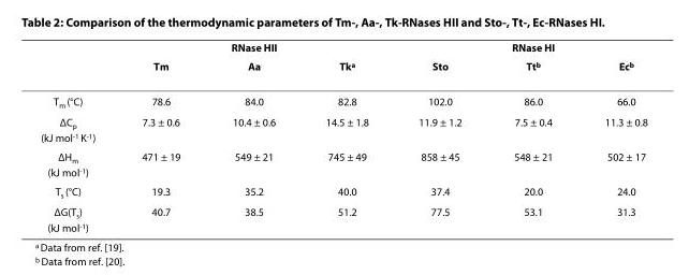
<table><thead><tr><td rowspan="2"></td><td colspan="3">RNase HII</td><td colspan="3">RNase HI</td></tr><tr><td>Tm</td><td>Aa</td><td>Tk<sup>a</sup></td><td>Sto</td><td>Tt<sup>b</sup></td><td>Ec<sup>b</sup></td></tr></thead><tbody><tr><td>T<sub>m</sub> (°C)</td><td>78.6</td><td>84.0</td><td>82.8</td><td>102.0</td><td>86.0</td><td>66.0</td></tr><tr><td>ΔC<sub>p</sub> (kJ mol<sup>-1</sup> K<sup>-1</sup>)</td><td>7.3 ± 0.6</td><td>10.4 ± 0.6</td><td>14.5 ± 1.8</td><td>11.9 ± 1.2</td><td>7.5 ± 0.4</td><td>11.3 ± 0.8</td></tr><tr><td>ΔH<sub>m</sub> (kJ mol<sup>-1</sup>)</td><td>471 ± 19</td><td>549 ± 21</td><td>745 ± 49</td><td>858 ± 45</td><td>548 ± 21</td><td>502 ± 17</td></tr><tr><td>T<sub>s</sub> (°C)</td><td>19.3</td><td>35.2</td><td>40.0</td><td>37.4</td><td>20.0</td><td>24.0</td></tr><tr><td>ΔG(T<sub>s</sub>) (kJ mol<sup>-1</sup>)</td><td>40.7</td><td>38.5</td><td>51.2</td><td>77.5</td><td>53.1</td><td>31.3</td></tr></tbody></table>